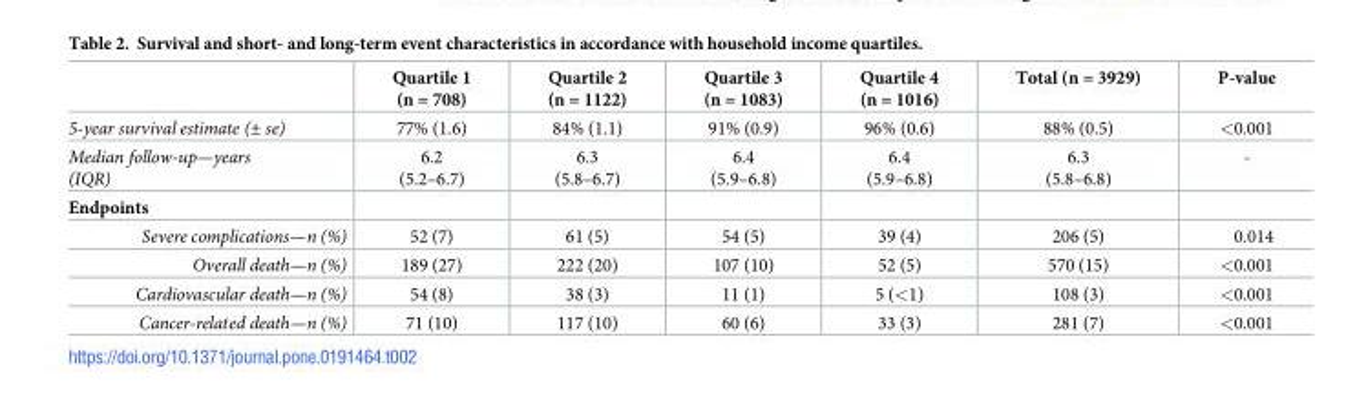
<table><thead><tr><td></td><td>Quartile 1 (n = 708)</td><td>Quartile 2 (n = 1122)</td><td>Quartile 3 (n = 1083)</td><td>Quartile 4 (n = 1016)</td><td>Total (n = 3929)</td><td>P-value</td></tr></thead><tbody><tr><td>5-year survival estimate (± se)</td><td>77% (1.6)</td><td>84% (1.1)</td><td>91% (0.9)</td><td>96% (0.6)</td><td>88% (0.5)</td><td>&lt;0.001</td></tr><tr><td>Median follow-up—years (IQR)</td><td>6.2 (5.2–6.7)</td><td>6.3 (5.8–6.7)</td><td>6.4 (5.9–6.8)</td><td>6.4 (5.9–6.8)</td><td>6.3 (5.8–6.8)</td><td>-</td></tr><tr><td colspan="7">Endpoints</td></tr><tr><td>Severe complications—n (%)</td><td>52 (7)</td><td>61 (5)</td><td>54 (5)</td><td>39 (4)</td><td>206 (5)</td><td>0.014</td></tr><tr><td>Overall death—n (%)</td><td>189 (27)</td><td>222 (20)</td><td>107 (10)</td><td>52 (5)</td><td>570 (15)</td><td>&lt;0.001</td></tr><tr><td>Cardiovascular death—n (%)</td><td>54 (8)</td><td>38 (3)</td><td>11 (1)</td><td>5 (&lt;1)</td><td>108 (3)</td><td>&lt;0.001</td></tr><tr><td>Cancer-related death—n (%)</td><td>71 (10)</td><td>117 (10)</td><td>60 (6)</td><td>33 (3)</td><td>281 (7)</td><td>&lt;0.001</td></tr></tbody></table>